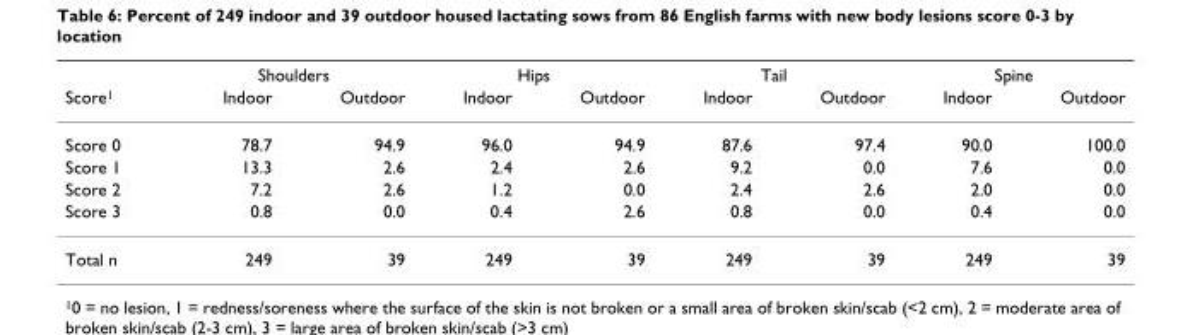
<table><thead><tr><td rowspan="2">Score1</td><td colspan="2">Shoulders</td><td colspan="2">Hips</td><td colspan="2">Tail</td><td colspan="2">Spine</td></tr><tr><td>Indoor</td><td>Outdoor</td><td>Indoor</td><td>Outdoor</td><td>Indoor</td><td>Outdoor</td><td>Indoor</td><td>Outdoor</td></tr></thead><tbody><tr><td>Score 0</td><td>78.7</td><td>94.9</td><td>96.0</td><td>94.9</td><td>87.6</td><td>97.4</td><td>90.0</td><td>100.0</td></tr><tr><td>Score 1</td><td>13.3</td><td>2.6</td><td>2.4</td><td>2.6</td><td>9.2</td><td>0.0</td><td>7.6</td><td>0.0</td></tr><tr><td>Score 2</td><td>7.2</td><td>2.6</td><td>1.2</td><td>0.0</td><td>2.4</td><td>2.6</td><td>2.0</td><td>0.0</td></tr><tr><td>Score 3</td><td>0.8</td><td>0.0</td><td>0.4</td><td>2.6</td><td>0.8</td><td>0.0</td><td>0.4</td><td>0.0</td></tr><tr><td>Total n</td><td>249</td><td>39</td><td>249</td><td>39</td><td>249</td><td>39</td><td>249</td><td>39</td></tr></tbody></table>